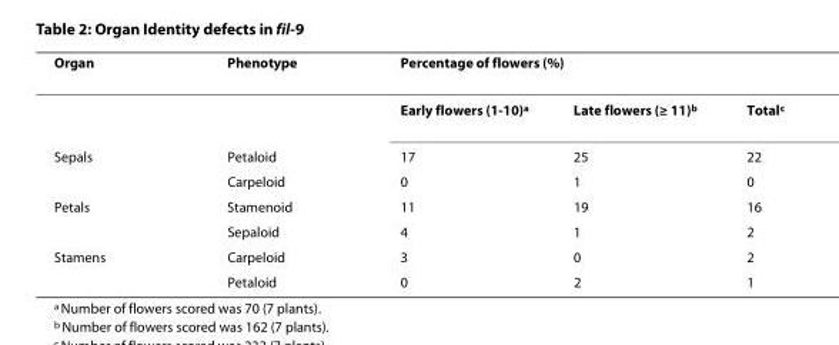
<table><thead><tr><td rowspan="2">Organ</td><td rowspan="2">Phenotype</td><td colspan="3">Percentage of flowers (%)</td></tr><tr><td>Early flowers (1-10)<sup>a</sup></td><td>Late flowers (≥ 11)<sup>b</sup></td><td>Total<sup>c</sup></td></tr></thead><tbody><tr><td rowspan="2">Sepals</td><td>Petaloid</td><td>17</td><td>25</td><td>22</td></tr><tr><td>Carpeloid</td><td>0</td><td>1</td><td>0</td></tr><tr><td rowspan="2">Petals</td><td>Stamenoid</td><td>11</td><td>19</td><td>16</td></tr><tr><td>Sepaloid</td><td>4</td><td>1</td><td>2</td></tr><tr><td rowspan="2">Stamens</td><td>Carpeloid</td><td>3</td><td>0</td><td>2</td></tr><tr><td>Petaloid</td><td>0</td><td>2</td><td>1</td></tr></tbody></table>